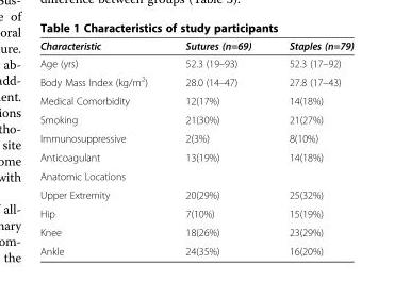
<table><thead><tr><td>Characteristic</td><td>Sutures (n=69)</td><td>Staples (n=79)</td></tr></thead><tbody><tr><td>Age (yrs)</td><td>52.3 (19–93)</td><td>52.3 (17–92)</td></tr><tr><td>Body Mass Index (kg/m<sup>2</sup>)</td><td>28.0 (14–47)</td><td>27.8 (17–43)</td></tr><tr><td>Medical Comorbidity</td><td>12(17%)</td><td>14(18%)</td></tr><tr><td>Smoking</td><td>21(30%)</td><td>21(27%)</td></tr><tr><td>Immunosuppressive</td><td>2(3%)</td><td>8(10%)</td></tr><tr><td>Anticoagulant</td><td>13(19%)</td><td>14(18%)</td></tr><tr><td colspan="3">Anatomic Locations</td></tr><tr><td>Upper Extremity</td><td>20(29%)</td><td>25(32%)</td></tr><tr><td>Hip</td><td>7(10%)</td><td>15(19%)</td></tr><tr><td>Knee</td><td>18(26%)</td><td>23(29%)</td></tr><tr><td>Ankle</td><td>24(35%)</td><td>16(20%)</td></tr></tbody></table>